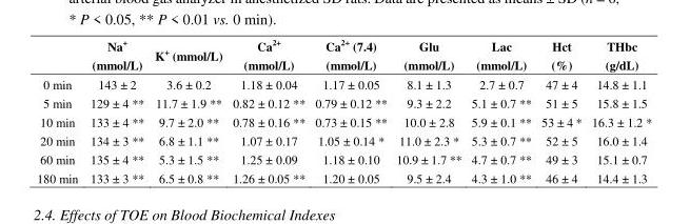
<table><thead><tr><td></td><td>Na<sup>+</sup> (mmol/L)</td><td>K<sup>+</sup> (mmol/L)</td><td>Ca<sup>2+</sup> (mmol/L)</td><td>Ca<sup>2+</sup> (7.4) (mmol/L)</td><td>Glu (mmol/L)</td><td>Lac (mmol/L)</td><td>Hct (%)</td><td>THbc (g/dL)</td></tr></thead><tbody><tr><td>0 min</td><td>143 ± 2</td><td>3.6 ± 0.2</td><td>1.18 ± 0.04</td><td>1.17 ± 0.05</td><td>8.1 ± 1.3</td><td>2.7 ± 0.7</td><td>47 ± 4</td><td>14.8 ± 1.1</td></tr><tr><td>5 min</td><td>129 ± 4 **</td><td>11.7 ± 1.9 **</td><td>0.82 ± 0.12 **</td><td>0.79 ± 0.12 **</td><td>9.3 ± 2.2</td><td>5.1 ± 0.7 **</td><td>51 ± 5</td><td>15.8 ± 1.5</td></tr><tr><td>10 min</td><td>133 ± 4 **</td><td>9.7 ± 2.0 **</td><td>0.78 ± 0.16 **</td><td>0.73 ± 0.15 **</td><td>10.0 ± 2.8</td><td>5.9 ± 0.1 **</td><td>53 ± 4 *</td><td>16.3 ± 1.2 *</td></tr><tr><td>20 min</td><td>134 ± 3 **</td><td>6.8 ± 1.1 **</td><td>1.07 ± 0.17</td><td>1.05 ± 0.14 *</td><td>11.0 ± 2.3 *</td><td>5.3 ± 0.7 **</td><td>52 ± 5</td><td>16.0 ± 1.4</td></tr><tr><td>60 min</td><td>135 ± 4 **</td><td>5.3 ± 1.5 **</td><td>1.25 ± 0.09</td><td>1.18 ± 0.10</td><td>10.9 ± 1.7 **</td><td>4.7 ± 0.7 **</td><td>49 ± 3</td><td>15.1 ± 0.7</td></tr><tr><td>180 min</td><td>133 ± 3 **</td><td>6.5 ± 0.8 **</td><td>1.26 ± 0.05 **</td><td>1.20 ± 0.05</td><td>9.5 ± 2.4</td><td>4.3 ± 1.0 **</td><td>46 ± 4</td><td>14.4 ± 1.3</td></tr></tbody></table>